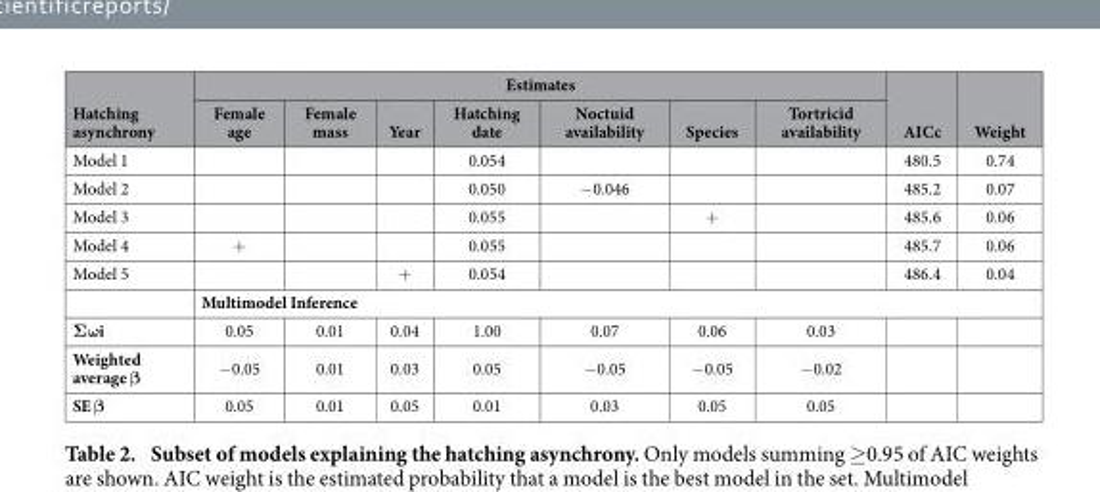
<table><thead><tr><td rowspan="2">Hatching asynchrony</td><td colspan="7">Estimates</td><td rowspan="2">AICc</td><td rowspan="2">Weight</td></tr><tr><td>Female age</td><td>Female mass</td><td>Year</td><td>Hatching date</td><td>Noctuid availability</td><td>Species</td><td>Tortricid availability</td></tr></thead><tbody><tr><td>Model 1</td><td></td><td></td><td></td><td>0.054</td><td></td><td></td><td></td><td>480.5</td><td>0.74</td></tr><tr><td>Model 2</td><td></td><td></td><td></td><td>0.050</td><td>− 0.046</td><td></td><td></td><td>485.2</td><td>0.07</td></tr><tr><td>Model 3</td><td></td><td></td><td></td><td>0.055</td><td></td><td>+</td><td></td><td>485.6</td><td>0.06</td></tr><tr><td>Model 4</td><td>+</td><td></td><td></td><td>0.055</td><td></td><td></td><td></td><td>485.7</td><td>0.06</td></tr><tr><td rowspan="2">Model 5</td><td></td><td></td><td>+</td><td>0.054</td><td></td><td></td><td></td><td>486.4</td><td>0.04</td></tr><tr><td colspan="9">Multimodel Inference</td></tr><tr><td>Σωi</td><td>0.05</td><td>0.01</td><td>0.04</td><td>1.00</td><td>0.07</td><td>0.06</td><td>0.03</td><td></td><td></td></tr><tr><td>Weighted average β</td><td>− 0.05</td><td>0.01</td><td>0.03</td><td>0.05</td><td>− 0.05</td><td>− 0.05</td><td>− 0.02</td><td></td><td></td></tr><tr><td>SE β</td><td>0.05</td><td>0.01</td><td>0.05</td><td>0.01</td><td>0.03</td><td>0.05</td><td>0.05</td><td></td><td></td></tr></tbody></table>